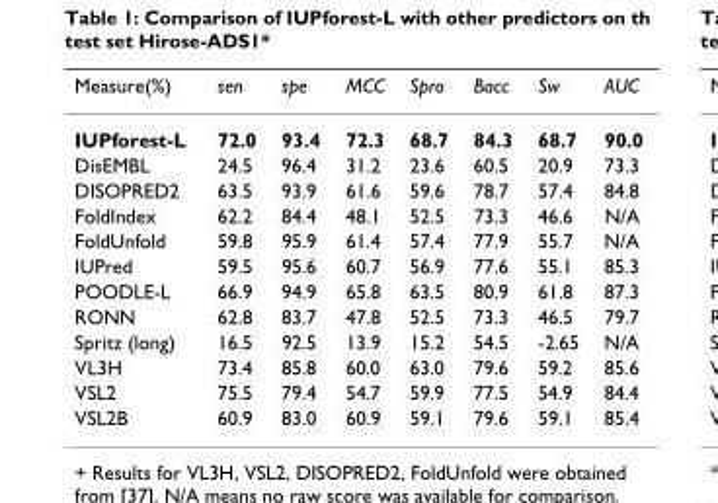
<table><thead><tr><td>Measure(%)</td><td>sen</td><td>spe</td><td>MCC</td><td>Spro</td><td>Bacc</td><td>Sw</td><td>AUC</td></tr></thead><tbody><tr><td>IUPforest-L</td><td>72.0</td><td>93.4</td><td>72.3</td><td>68.7</td><td>84.3</td><td>68.7</td><td>90.0</td></tr><tr><td>DisEMBL</td><td>24.5</td><td>96.4</td><td>31.2</td><td>23.6</td><td>60.5</td><td>20.9</td><td>73.3</td></tr><tr><td>DISOPRED2</td><td>63.5</td><td>93.9</td><td>61.6</td><td>59.6</td><td>78.7</td><td>57.4</td><td>84.8</td></tr><tr><td>FoldIndex</td><td>62.2</td><td>84.4</td><td>48.1</td><td>52.5</td><td>73.3</td><td>46.6</td><td>N/A</td></tr><tr><td>FoldUnfold</td><td>59.8</td><td>95.9</td><td>61.4</td><td>57.4</td><td>77.9</td><td>55.7</td><td>N/A</td></tr><tr><td>IUPred</td><td>59.5</td><td>95.6</td><td>60.7</td><td>56.9</td><td>77.6</td><td>55.1</td><td>85.3</td></tr><tr><td>POODLE-L</td><td>66.9</td><td>94.9</td><td>65.8</td><td>63.5</td><td>80.9</td><td>61.8</td><td>87.3</td></tr><tr><td>RONN</td><td>62.8</td><td>83.7</td><td>47.8</td><td>52.5</td><td>73.3</td><td>46.5</td><td>79.7</td></tr><tr><td>Spritz (long)</td><td>16.5</td><td>92.5</td><td>13.9</td><td>15.2</td><td>54.5</td><td>-2.65</td><td>N/A</td></tr><tr><td>VL3H</td><td>73.4</td><td>85.8</td><td>60.0</td><td>63.0</td><td>79.6</td><td>59.2</td><td>85.6</td></tr><tr><td>VSL2</td><td>75.5</td><td>79.4</td><td>54.7</td><td>59.9</td><td>77.5</td><td>54.9</td><td>84.4</td></tr><tr><td>VSL2B</td><td>60.9</td><td>83.0</td><td>60.9</td><td>59.1</td><td>79.6</td><td>59.1</td><td>85.4</td></tr></tbody></table>